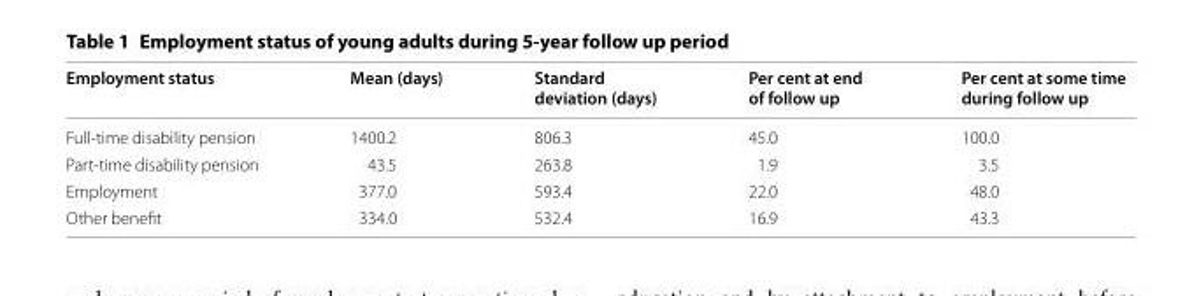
<table><thead><tr><td>Employment status</td><td>Mean (days)</td><td>Standard deviation (days)</td><td>Per cent at end of follow up</td><td>Per cent at some time during follow up</td></tr></thead><tbody><tr><td>Full‑time disability pension</td><td>1400.2</td><td>806.3</td><td>45.0</td><td>100.0</td></tr><tr><td>Part‑time disability pension</td><td>43.5</td><td>263.8</td><td>1.9</td><td>3.5</td></tr><tr><td>Employment</td><td>377.0</td><td>593.4</td><td>22.0</td><td>48.0</td></tr><tr><td>Other benefit</td><td>334.0</td><td>532.4</td><td>16.9</td><td>43.3</td></tr></tbody></table>